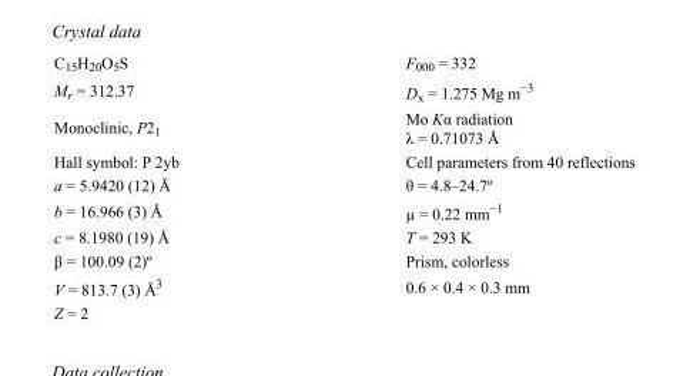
<table><tbody><tr><td>C<sub>15</sub>H<sub>20</sub>O<sub>5</sub>S</td><td>F000 = 332</td></tr><tr><td>M<sub>r</sub> = 312.37</td><td>D<sub>x</sub> = 1.275 Mg m<sup>−3</sup></td></tr><tr><td>Monoclinic, P2<sub>1</sub></td><td>Mo Kα radiation λ = 0.71073 Å</td></tr><tr><td>Hall symbol: P 2yb</td><td>Cell parameters from 40 reflections</td></tr><tr><td>a = 5.9420 (12) Å</td><td>θ = 4.8–24.7º</td></tr><tr><td>b = 16.966 (3) Å</td><td>µ = 0.22 mm<sup>−1</sup></td></tr><tr><td>c = 8.1980 (19) Å</td><td>T = 293 K</td></tr><tr><td>β = 100.09 (2)º</td><td>Prism, colorless</td></tr><tr><td>V = 813.7 (3) Å<sup>3</sup></td><td>0.6 × 0.4 × 0.3 mm</td></tr><tr><td>Z = 2</td><td></td></tr></tbody></table>